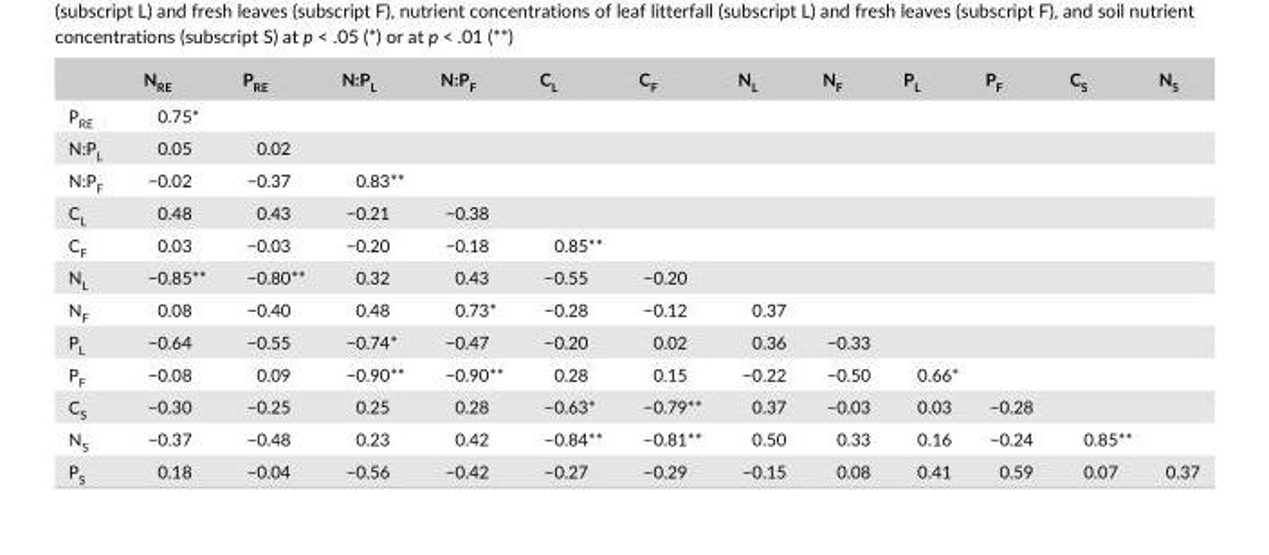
<table><thead><tr><td></td><td>N<sub>RE</sub></td><td>P<sub>RE</sub></td><td>N:P<sub>L</sub></td><td>N:P<sub>F</sub></td><td>C<sub>L</sub></td><td>C<sub>F</sub></td><td>N<sub>L</sub></td><td>N<sub>F</sub></td><td>P<sub>L</sub></td><td>P<sub>F</sub></td><td>C<sub>S</sub></td><td>N<sub>S</sub></td></tr></thead><tbody><tr><td>P<sub>RE</sub></td><td>0.75*</td><td></td><td></td><td></td><td></td><td></td><td></td><td></td><td></td><td></td><td></td><td></td></tr><tr><td>N:P<sub>L</sub></td><td>0.05</td><td>0.02</td><td></td><td></td><td></td><td></td><td></td><td></td><td></td><td></td><td></td><td></td></tr><tr><td>N:P<sub>F</sub></td><td>−0.02</td><td>−0.37</td><td>0.83**</td><td></td><td></td><td></td><td></td><td></td><td></td><td></td><td></td><td></td></tr><tr><td>C<sub>L</sub></td><td>0.48</td><td>0.43</td><td>−0.21</td><td>−0.38</td><td></td><td></td><td></td><td></td><td></td><td></td><td></td><td></td></tr><tr><td>C<sub>F</sub></td><td>0.03</td><td>−0.03</td><td>−0.20</td><td>−0.18</td><td>0.85**</td><td></td><td></td><td></td><td></td><td></td><td></td><td></td></tr><tr><td>N<sub>L</sub></td><td>−0.85**</td><td>−0.80**</td><td>0.32</td><td>0.43</td><td>−0.55</td><td>−0.20</td><td></td><td></td><td></td><td></td><td></td><td></td></tr><tr><td>N<sub>F</sub></td><td>0.08</td><td>−0.40</td><td>0.48</td><td>0.73*</td><td>−0.28</td><td>−0.12</td><td>0.37</td><td></td><td></td><td></td><td></td><td></td></tr><tr><td>P<sub>L</sub></td><td>−0.64</td><td>−0.55</td><td>−0.74*</td><td>−0.47</td><td>−0.20</td><td>0.02</td><td>0.36</td><td>−0.33</td><td></td><td></td><td></td><td></td></tr><tr><td>P<sub>F</sub></td><td>−0.08</td><td>0.09</td><td>−0.90**</td><td>−0.90**</td><td>0.28</td><td>0.15</td><td>−0.22</td><td>−0.50</td><td>0.66*</td><td></td><td></td><td></td></tr><tr><td>C<sub>S</sub></td><td>−0.30</td><td>−0.25</td><td>0.25</td><td>0.28</td><td>−0.63*</td><td>−0.79**</td><td>0.37</td><td>−0.03</td><td>0.03</td><td>−0.28</td><td></td><td></td></tr><tr><td>N<sub>S</sub></td><td>−0.37</td><td>−0.48</td><td>0.23</td><td>0.42</td><td>−0.84**</td><td>−0.81**</td><td>0.50</td><td>0.33</td><td>0.16</td><td>−0.24</td><td>0.85**</td><td></td></tr><tr><td>P<sub>S</sub></td><td>0.18</td><td>−0.04</td><td>−0.56</td><td>−0.42</td><td>−0.27</td><td>−0.29</td><td>−0.15</td><td>0.08</td><td>0.41</td><td>0.59</td><td>0.07</td><td>0.37</td></tr></tbody></table>